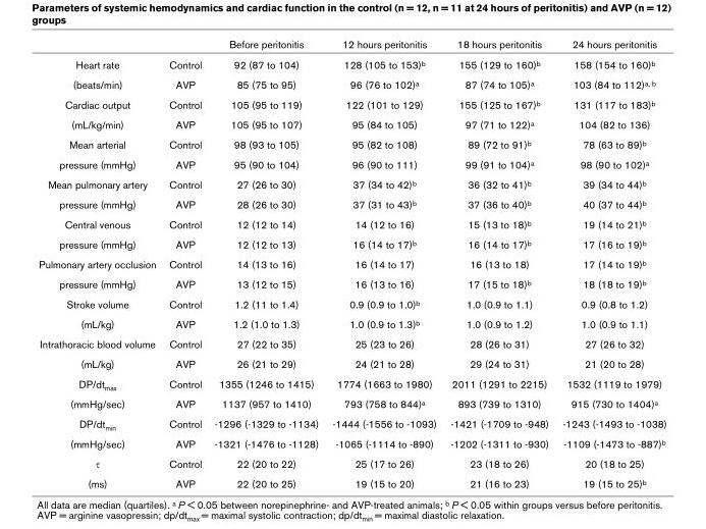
<table><thead><tr><td></td><td></td><td>Before peritonitis</td><td>12 hours peritonitis</td><td>18 hours peritonitis</td><td>24 hours peritonitis</td></tr></thead><tbody><tr><td>Heart rate</td><td>Control</td><td>92 (87 to 104)</td><td>128 (105 to 153)<sup>b</sup></td><td>155 (129 to 160)<sup>b</sup></td><td>158 (154 to 160)<sup>b</sup></td></tr><tr><td>(beats/min)</td><td>AVP</td><td>85 (75 to 95)</td><td>96 (76 to 102)<sup>a</sup></td><td>87 (74 to 105)<sup>a</sup></td><td>103 (84 to 112)<sup>a, b</sup></td></tr><tr><td>Cardiac output</td><td>Control</td><td>105 (95 to 119)</td><td>122 (101 to 129)</td><td>155 (125 to 167)<sup>b</sup></td><td>131 (117 to 183)<sup>b</sup></td></tr><tr><td>(mL/kg/min)</td><td>AVP</td><td>105 (95 to 107)</td><td>95 (84 to 105)</td><td>97 (71 to 122)<sup>a</sup></td><td>104 (82 to 136)</td></tr><tr><td>Mean arterial</td><td>Control</td><td>98 (93 to 105)</td><td>95 (82 to 108)</td><td>89 (72 to 91)<sup>b</sup></td><td>78 (63 to 89)<sup>b</sup></td></tr><tr><td>pressure (mmHg)</td><td>AVP</td><td>95 (90 to 104)</td><td>96 (90 to 111)</td><td>99 (91 to 104)<sup>a</sup></td><td>98 (90 to 102)<sup>a</sup></td></tr><tr><td>Mean pulmonary artery</td><td>Control</td><td>27 (26 to 30)</td><td>37 (34 to 42)<sup>b</sup></td><td>36 (32 to 41)<sup>b</sup></td><td>39 (34 to 44)<sup>b</sup></td></tr><tr><td>pressure (mmHg)</td><td>AVP</td><td>28 (26 to 30)</td><td>37 (31 to 43)<sup>b</sup></td><td>37 (36 to 40)<sup>b</sup></td><td>40 (37 to 44)<sup>b</sup></td></tr><tr><td>Central venous</td><td>Control</td><td>12 (12 to 14)</td><td>14 (12 to 16)</td><td>15 (13 to 18)<sup>b</sup></td><td>19 (14 to 21)<sup>b</sup></td></tr><tr><td>pressure (mmHg)</td><td>AVP</td><td>12 (12 to 13)</td><td>16 (14 to 17)<sup>b</sup></td><td>16 (14 to 17)<sup>b</sup></td><td>17 (16 to 19)<sup>b</sup></td></tr><tr><td>Pulmonary artery occlusion</td><td>Control</td><td>14 (13 to 16)</td><td>16 (14 to 17)</td><td>16 (13 to 18)</td><td>17 (14 to 19)<sup>b</sup></td></tr><tr><td>pressure (mmHg)</td><td>AVP</td><td>13 (12 to 15)</td><td>16 (13 to 16)</td><td>17 (15 to 18)<sup>b</sup></td><td>18 (18 to 19)<sup>b</sup></td></tr><tr><td>Stroke volume</td><td>Control</td><td>1.2 (11 to 1.4)</td><td>0.9 (0.9 to 1.0)<sup>b</sup></td><td>1.0 (0.9 to 1.1)</td><td>0.9 (0.8 to 1.2)</td></tr><tr><td>(mL/kg)</td><td>AVP</td><td>1.2 (1.0 to 1.3)</td><td>1.0 (0.9 to 1.3)<sup>b</sup></td><td>1.0 (0.9 to 1.2)</td><td>1.0 (0.9 to 1.1)</td></tr><tr><td>Intrathoracic blood volume</td><td>Control</td><td>27 (22 to 35)</td><td>25 (23 to 26)</td><td>28 (26 to 31)</td><td>27 (26 to 32)</td></tr><tr><td>(mL/kg)</td><td>AVP</td><td>26 (21 to 29)</td><td>24 (21 to 28)</td><td>29 (24 to 31)</td><td>21 (20 to 28)</td></tr><tr><td>DP/dt<sub>max</sub></td><td>Control</td><td>1355 (1246 to 1415)</td><td>1774 (1663 to 1980)</td><td>2011 (1291 to 2215)</td><td>1532 (1119 to 1979)</td></tr><tr><td>(mmHg/sec)</td><td>AVP</td><td>1137 (957 to 1410)</td><td>793 (758 to 844)<sup>a</sup></td><td>893 (739 to 1310)</td><td>915 (730 to 1404)<sup>a</sup></td></tr><tr><td>DP/dt<sub>min</sub></td><td>Control</td><td>-1296 (-1329 to -1134)</td><td>-1444 (-1556 to -1093)</td><td>-1421 (-1709 to -948)</td><td>-1243 (-1493 to -1038)</td></tr><tr><td>(mmHg/sec)</td><td>AVP</td><td>-1321 (-1476 to -1128)</td><td>-1065 (-1114 to -890)</td><td>-1202 (-1311 to -930)</td><td>-1109 (-1473 to -887)<sup>b</sup></td></tr><tr><td>τ</td><td>Control</td><td>22 (20 to 22)</td><td>25 (17 to 26)</td><td>23 (18 to 26)</td><td>20 (18 to 25)</td></tr><tr><td>(ms)</td><td>AVP</td><td>22 (20 to 25)</td><td>19 (15 to 20)</td><td>21 (16 to 23)</td><td>19 (15 to 25)<sup>b</sup></td></tr></tbody></table>